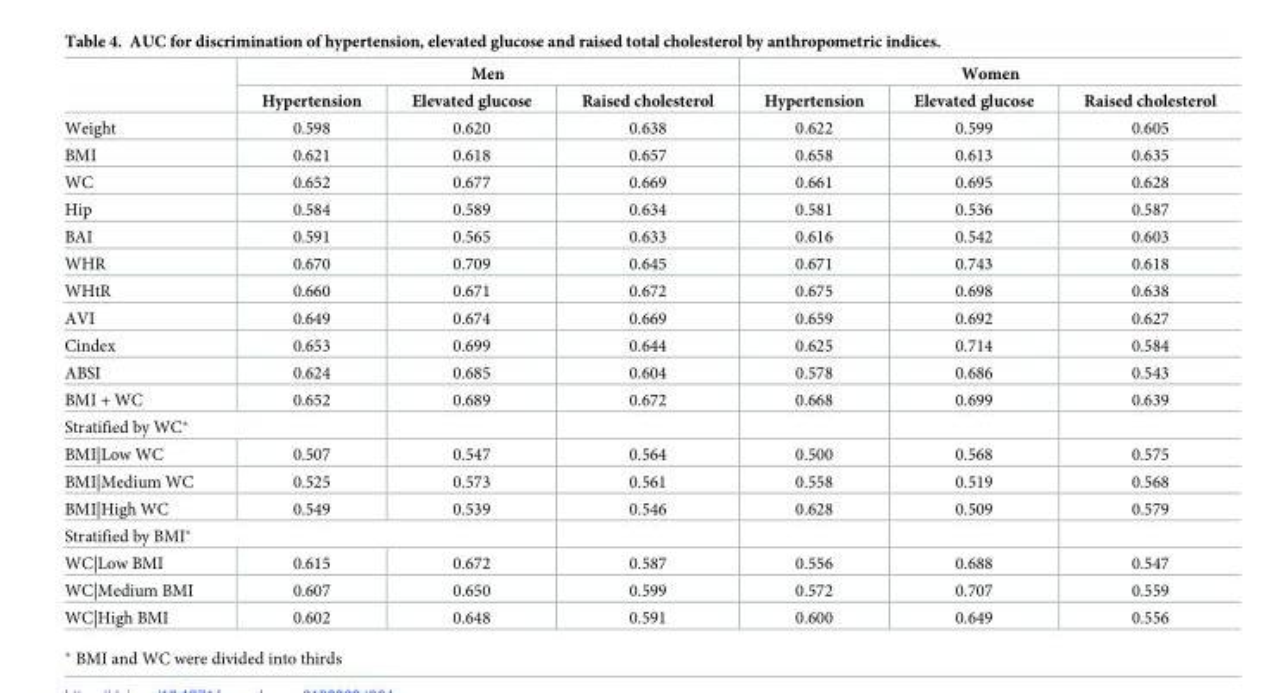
<table><thead><tr><td rowspan="2"></td><td colspan="3">Men</td><td colspan="3">Women</td></tr><tr><td>Hypertension</td><td>Elevated glucose</td><td>Raised cholesterol</td><td>Hypertension</td><td>Elevated glucose</td><td>Raised cholesterol</td></tr></thead><tbody><tr><td>Weight</td><td>0.598</td><td>0.620</td><td>0.638</td><td>0.622</td><td>0.599</td><td>0.605</td></tr><tr><td>BMI</td><td>0.621</td><td>0.618</td><td>0.657</td><td>0.658</td><td>0.613</td><td>0.635</td></tr><tr><td>WC</td><td>0.652</td><td>0.677</td><td>0.669</td><td>0.661</td><td>0.695</td><td>0.628</td></tr><tr><td>Hip</td><td>0.584</td><td>0.589</td><td>0.634</td><td>0.581</td><td>0.536</td><td>0.587</td></tr><tr><td>BAI</td><td>0.591</td><td>0.565</td><td>0.633</td><td>0.616</td><td>0.542</td><td>0.603</td></tr><tr><td>WHR</td><td>0.670</td><td>0.709</td><td>0.645</td><td>0.671</td><td>0.743</td><td>0.618</td></tr><tr><td>WHtR</td><td>0.660</td><td>0.671</td><td>0.672</td><td>0.675</td><td>0.698</td><td>0.638</td></tr><tr><td>AVI</td><td>0.649</td><td>0.674</td><td>0.669</td><td>0.659</td><td>0.692</td><td>0.627</td></tr><tr><td>Cindex</td><td>0.653</td><td>0.699</td><td>0.644</td><td>0.625</td><td>0.714</td><td>0.584</td></tr><tr><td>ABSI</td><td>0.624</td><td>0.685</td><td>0.604</td><td>0.578</td><td>0.686</td><td>0.543</td></tr><tr><td>BMI + WC</td><td>0.652</td><td>0.689</td><td>0.672</td><td>0.668</td><td>0.699</td><td>0.639</td></tr><tr><td colspan="7">Stratified by WC*</td></tr><tr><td>BMI|Low WC</td><td>0.507</td><td>0.547</td><td>0.564</td><td>0.500</td><td>0.568</td><td>0.575</td></tr><tr><td>BMI|Medium WC</td><td>0.525</td><td>0.573</td><td>0.561</td><td>0.558</td><td>0.519</td><td>0.568</td></tr><tr><td>BMI|High WC</td><td>0.549</td><td>0.539</td><td>0.546</td><td>0.628</td><td>0.509</td><td>0.579</td></tr><tr><td colspan="7">Stratified by BMI*</td></tr><tr><td>WC|Low BMI</td><td>0.615</td><td>0.672</td><td>0.587</td><td>0.556</td><td>0.688</td><td>0.547</td></tr><tr><td>WC|Medium BMI</td><td>0.607</td><td>0.650</td><td>0.599</td><td>0.572</td><td>0.707</td><td>0.559</td></tr><tr><td>WC|High BMI</td><td>0.602</td><td>0.648</td><td>0.591</td><td>0.600</td><td>0.649</td><td>0.556</td></tr></tbody></table>